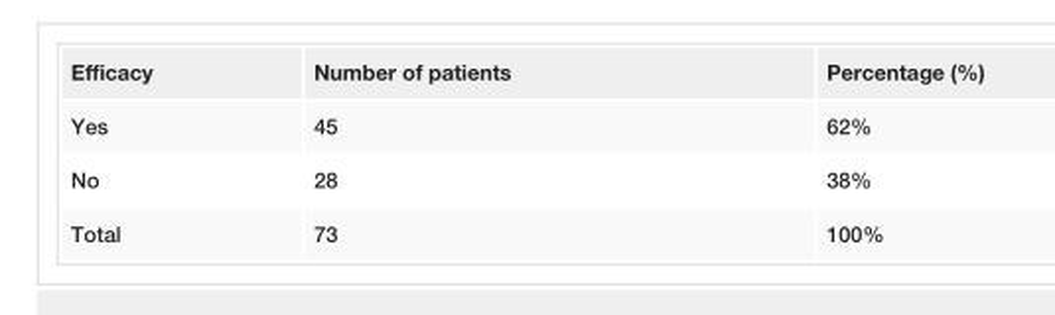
<table><tbody><tr><td>Efficacy</td><td>Number of patients</td><td>Percentage (%)</td></tr><tr><td>Yes</td><td>45</td><td>62%</td></tr><tr><td>No</td><td>28</td><td>38%</td></tr><tr><td>Total</td><td>73</td><td>100%</td></tr></tbody></table>